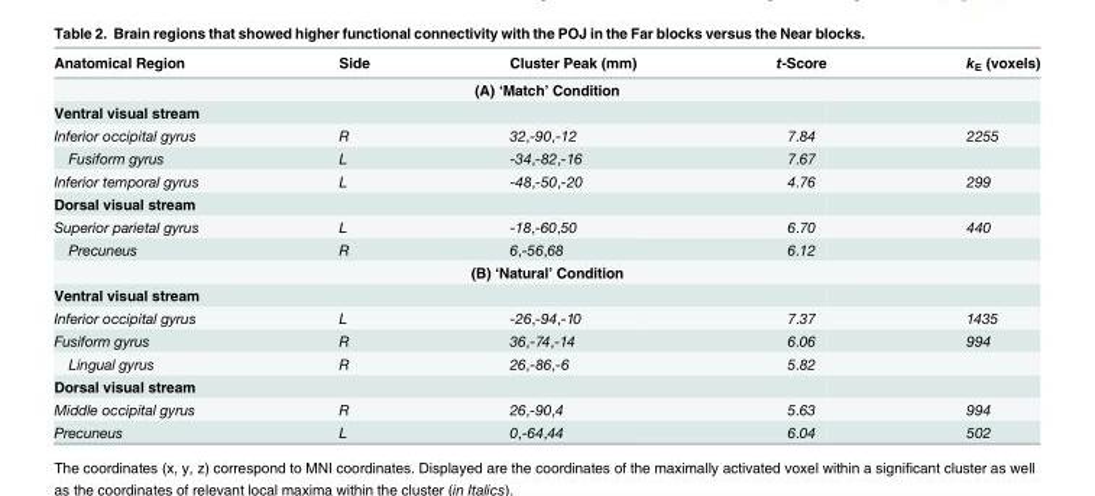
<table><thead><tr><td>Anatomical Region</td><td>Side</td><td>Cluster Peak (mm)</td><td>t-Score</td><td>k<sub>E</sub> (voxels)</td></tr></thead><tbody><tr><td colspan="5">(A) ‘Match’ Condition</td></tr><tr><td colspan="5">Ventral visual stream</td></tr><tr><td>Inferior occipital gyrus</td><td>R</td><td>32,-90,-12</td><td>7.84</td><td>2255</td></tr><tr><td>Fusiform gyrus</td><td>L</td><td>-34,-82,-16</td><td>7.67</td><td></td></tr><tr><td>Inferior temporal gyrus</td><td>L</td><td>-48,-50,-20</td><td>4.76</td><td>299</td></tr><tr><td colspan="5">Dorsal visual stream</td></tr><tr><td>Superior parietal gyrus</td><td>L</td><td>-18,-60,50</td><td>6.70</td><td>440</td></tr><tr><td>Precuneus</td><td>R</td><td>6,-56,68</td><td>6.12</td><td></td></tr><tr><td colspan="5">(B) ‘Natural’ Condition</td></tr><tr><td colspan="5">Ventral visual stream</td></tr><tr><td>Inferior occipital gyrus</td><td>L</td><td>-26,-94,-10</td><td>7.37</td><td>1435</td></tr><tr><td>Fusiform gyrus</td><td>R</td><td>36,-74,-14</td><td>6.06</td><td>994</td></tr><tr><td>Lingual gyrus</td><td>R</td><td>26,-86,-6</td><td>5.82</td><td></td></tr><tr><td colspan="5">Dorsal visual stream</td></tr><tr><td>Middle occipital gyrus</td><td>R</td><td>26,-90,4</td><td>5.63</td><td>994</td></tr><tr><td>Precuneus</td><td>L</td><td>0,-64,44</td><td>6.04</td><td>502</td></tr></tbody></table>